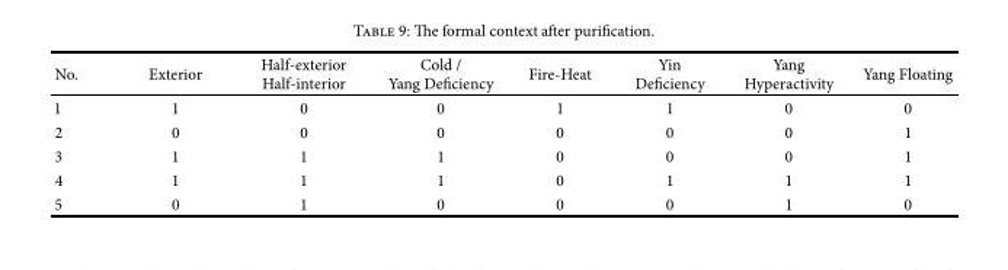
<table><thead><tr><td>No.</td><td>Exterior</td><td>Half-exterior Half-interior</td><td>Cold / Yang Deficiency</td><td>Fire-Heat</td><td>Yin Deficiency</td><td>Yang Hyperactivity</td><td>Yang Floating</td></tr></thead><tbody><tr><td>1</td><td>1</td><td>0</td><td>0</td><td>1</td><td>1</td><td>0</td><td>0</td></tr><tr><td>2</td><td>0</td><td>0</td><td>0</td><td>0</td><td>0</td><td>0</td><td>1</td></tr><tr><td>3</td><td>1</td><td>1</td><td>1</td><td>0</td><td>0</td><td>0</td><td>1</td></tr><tr><td>4</td><td>1</td><td>1</td><td>1</td><td>0</td><td>1</td><td>1</td><td>1</td></tr><tr><td>5</td><td>0</td><td>1</td><td>0</td><td>0</td><td>0</td><td>1</td><td>0</td></tr></tbody></table>